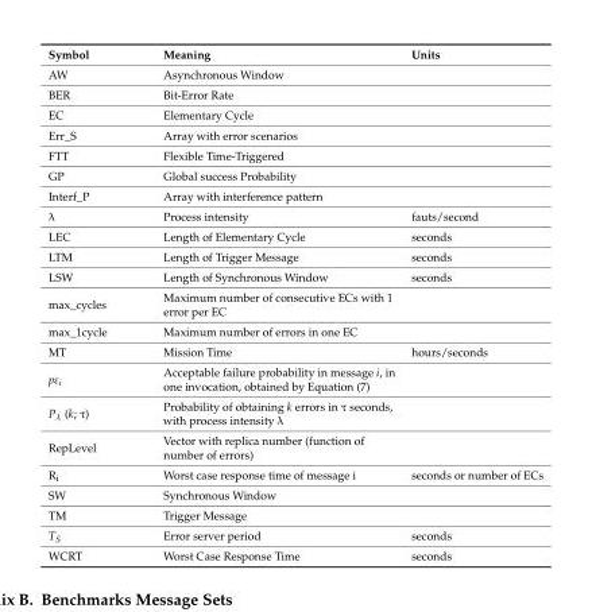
<table><tbody><tr><td>Symbol</td><td>Meaning</td><td>Units</td></tr><tr><td>AW</td><td>Asynchronous Window</td><td></td></tr><tr><td>BER</td><td>Bit-Error Rate</td><td></td></tr><tr><td>EC</td><td>Elementary Cycle</td><td></td></tr><tr><td>Err_S</td><td>Array with error scenarios</td><td></td></tr><tr><td>FTT</td><td>Flexible Time-Triggered</td><td></td></tr><tr><td>GP</td><td>Global success Probability</td><td></td></tr><tr><td>Interf_P</td><td>Array with interference pattern</td><td></td></tr><tr><td>λ</td><td>Process intensity</td><td>fauts/second</td></tr><tr><td>LEC</td><td>Length of Elementary Cycle</td><td>seconds</td></tr><tr><td>LTM</td><td>Length of Trigger Message</td><td>seconds</td></tr><tr><td>LSW</td><td>Length of Synchronous Window</td><td>seconds</td></tr><tr><td>max_cycles</td><td>Maximum number of consecutive ECs with 1 error per EC</td><td></td></tr><tr><td>max_1cycle</td><td>Maximum number of errors in one EC</td><td></td></tr><tr><td>MT</td><td>Mission Time</td><td>hours/seconds</td></tr><tr><td>pε<sub>i</sub></td><td>Acceptable failure probability in message i, in one invocation, obtained by Equation (7)</td><td></td></tr><tr><td>P<sub>λ</sub> (k; τ)</td><td>Probability of obtaining k errors in τ seconds, with process intensity λ</td><td></td></tr><tr><td>RepLevel</td><td>Vector with replica number (function of number of errors)</td><td></td></tr><tr><td>R<sub>i</sub></td><td>Worst case response time of message i</td><td>seconds or number of ECs</td></tr><tr><td>SW</td><td>Synchronous Window</td><td></td></tr><tr><td>TM</td><td>Trigger Message</td><td></td></tr><tr><td>T<sub>S</sub></td><td>Error server period</td><td>seconds</td></tr><tr><td>WCRT</td><td>Worst Case Response Time</td><td>seconds</td></tr></tbody></table>